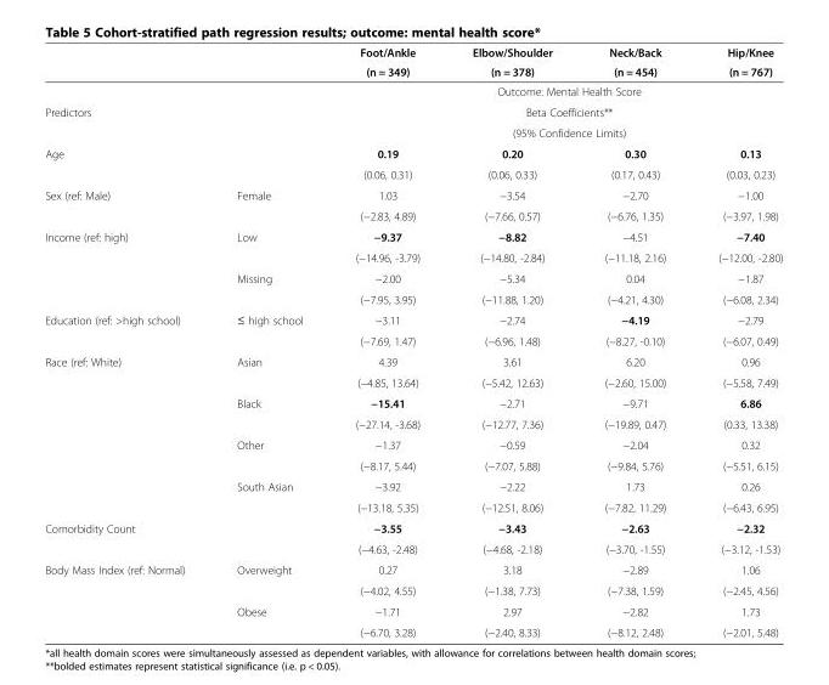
<table><thead><tr><td rowspan="2"></td><td rowspan="2"></td><td rowspan="2">Foot/Ankle (n = 349)</td><td rowspan="2">Elbow/Shoulder (n = 378)</td><td rowspan="2">Neck/Back (n = 454)</td><td rowspan="2">Hip/Knee (n = 767)</td></tr><tr></tr></thead><tbody><tr><td></td><td></td><td></td><td colspan="2">Outcome: Mental Health Score</td><td></td></tr><tr><td rowspan="2">Predictors</td><td rowspan="2"></td><td></td><td colspan="2">Beta Coefficients**</td><td></td></tr><tr><td></td><td colspan="2">(95% Confidence Limits)</td><td></td></tr><tr><td rowspan="2">Age</td><td></td><td>0.19</td><td>0.20</td><td>0.30</td><td>0.13</td></tr><tr><td></td><td>(0.06, 0.31)</td><td>(0.06, 0.33)</td><td>(0.17, 0.43)</td><td>(0.03, 0.23)</td></tr><tr><td rowspan="2">Sex (ref: Male)</td><td>Female</td><td>1.03</td><td>−3.54</td><td>−2.70</td><td>−1.00</td></tr><tr><td></td><td>(−2.83, 4.89)</td><td>(−7.66, 0.57)</td><td>(−6.76, 1.35)</td><td>(−3.97, 1.98)</td></tr><tr><td rowspan="4">Income (ref: high)</td><td>Low</td><td>−9.37</td><td>−8.82</td><td>−4.51</td><td>−7.40</td></tr><tr><td></td><td>(−14.96, -3.79)</td><td>(−14.80, -2.84)</td><td>(−11.18, 2.16)</td><td>(−12.00, -2.80)</td></tr><tr><td>Missing</td><td>−2.00</td><td>−5.34</td><td>0.04</td><td>−1.87</td></tr><tr><td></td><td>(−7.95, 3.95)</td><td>(−11.88, 1.20)</td><td>(−4.21, 4.30)</td><td>(−6.08, 2.34)</td></tr><tr><td rowspan="2">Education (ref: &gt;high school)</td><td>≤ high school</td><td>−3.11</td><td>−2.74</td><td>−4.19</td><td>−2.79</td></tr><tr><td></td><td>(−7.69, 1.47)</td><td>(−6.96, 1.48)</td><td>(−8.27, -0.10)</td><td>(−6.07, 0.49)</td></tr><tr><td rowspan="8">Race (ref: White)</td><td>Asian</td><td>4.39</td><td>3.61</td><td>6.20</td><td>0.96</td></tr><tr><td></td><td>(−4.85, 13.64)</td><td>(−5.42, 12.63)</td><td>(−2.60, 15.00)</td><td>(−5.58, 7.49)</td></tr><tr><td>Black</td><td>−15.41</td><td>−2.71</td><td>−9.71</td><td>6.86</td></tr><tr><td></td><td>(−27.14, -3.68)</td><td>(−12.77, 7.36)</td><td>(−19.89, 0.47)</td><td>(0.33, 13.38)</td></tr><tr><td>Other</td><td>−1.37</td><td>−0.59</td><td>−2.04</td><td>0.32</td></tr><tr><td></td><td>(−8.17, 5.44)</td><td>(−7.07, 5.88)</td><td>(−9.84, 5.76)</td><td>(−5.51, 6.15)</td></tr><tr><td>South Asian</td><td>−3.92</td><td>−2.22</td><td>1.73</td><td>0.26</td></tr><tr><td></td><td>(−13.18, 5.35)</td><td>(−12.51, 8.06)</td><td>(−7.82, 11.29)</td><td>(−6.43, 6.95)</td></tr><tr><td rowspan="2">Comorbidity Count</td><td></td><td>−3.55</td><td>−3.43</td><td>−2.63</td><td>−2.32</td></tr><tr><td></td><td>(−4.63, -2.48)</td><td>(−4.68, -2.18)</td><td>(−3.70, -1.55)</td><td>(−3.12, -1.53)</td></tr><tr><td rowspan="4">Body Mass Index (ref: Normal)</td><td>Overweight</td><td>0.27</td><td>3.18</td><td>−2.89</td><td>1.06</td></tr><tr><td></td><td>(−4.02, 4.55)</td><td>(−1.38, 7.73)</td><td>(−7.38, 1.59)</td><td>(−2.45, 4.56)</td></tr><tr><td>Obese</td><td>−1.71</td><td>2.97</td><td>−2.82</td><td>1.73</td></tr><tr><td></td><td>(−6.70, 3.28)</td><td>(−2.40, 8.33)</td><td>(−8.12, 2.48)</td><td>(−2.01, 5.48)</td></tr></tbody></table>